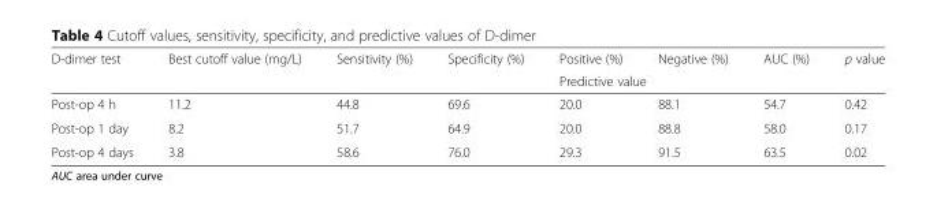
<table><thead><tr><td rowspan="2">D-dimer test</td><td rowspan="2">Best cutoff value (mg/L)</td><td rowspan="2">Sensitivity (%)</td><td rowspan="2">Specificity (%)</td><td>Positive (%)</td><td>Negative (%)</td><td rowspan="2">AUC (%)</td><td rowspan="2">p value</td></tr><tr><td colspan="2">Predictive value</td></tr></thead><tbody><tr><td>Post-op 4 h</td><td>11.2</td><td>44.8</td><td>69.6</td><td>20.0</td><td>88.1</td><td>54.7</td><td>0.42</td></tr><tr><td>Post-op 1 day</td><td>8.2</td><td>51.7</td><td>64.9</td><td>20.0</td><td>88.8</td><td>58.0</td><td>0.17</td></tr><tr><td>Post-op 4 days</td><td>3.8</td><td>58.6</td><td>76.0</td><td>29.3</td><td>91.5</td><td>63.5</td><td>0.02</td></tr></tbody></table>